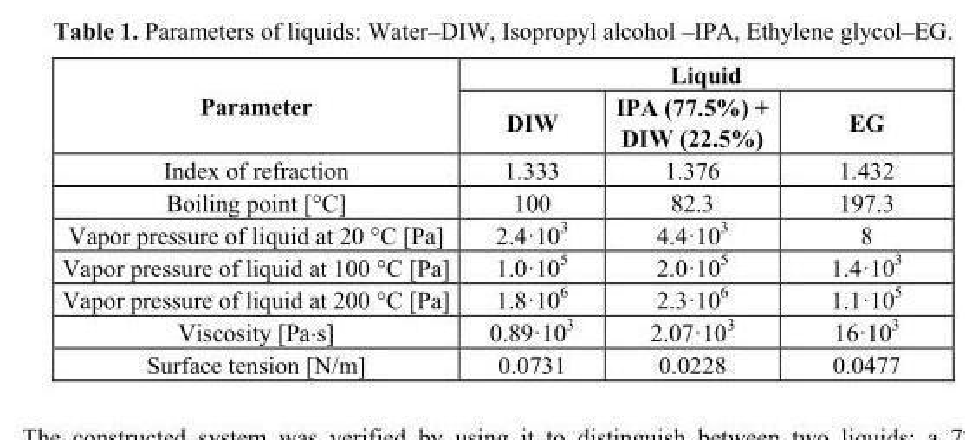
<table><thead><tr><td rowspan="2">Parameter</td><td colspan="3">Liquid</td></tr><tr><td>DIW</td><td>IPA (77.5%) + DIW (22.5%)</td><td>EG</td></tr></thead><tbody><tr><td>Index of refraction</td><td>1.333</td><td>1.376</td><td>1.432</td></tr><tr><td>Boiling point [°C]</td><td>100</td><td>82.3</td><td>197.3</td></tr><tr><td>Vapor pressure of liquid at 20 °C [Pa]</td><td>2.4·10<sup>3</sup></td><td>4.4·10<sup>3</sup></td><td>8</td></tr><tr><td>Vapor pressure of liquid at 100 °C [Pa]</td><td>1.0·10<sup>5</sup></td><td>2.0·10<sup>5</sup></td><td>1.4·10<sup>3</sup></td></tr><tr><td>Vapor pressure of liquid at 200 °C [Pa]</td><td>1.8·10<sup>6</sup></td><td>2.3·10<sup>6</sup></td><td>1.1·10<sup>5</sup></td></tr><tr><td>Viscosity [Pa·s]</td><td>0.89·10<sup>3</sup></td><td>2.07·10<sup>3</sup></td><td>16·10<sup>3</sup></td></tr><tr><td>Surface tension [N/m]</td><td>0.0731</td><td>0.0228</td><td>0.0477</td></tr></tbody></table>